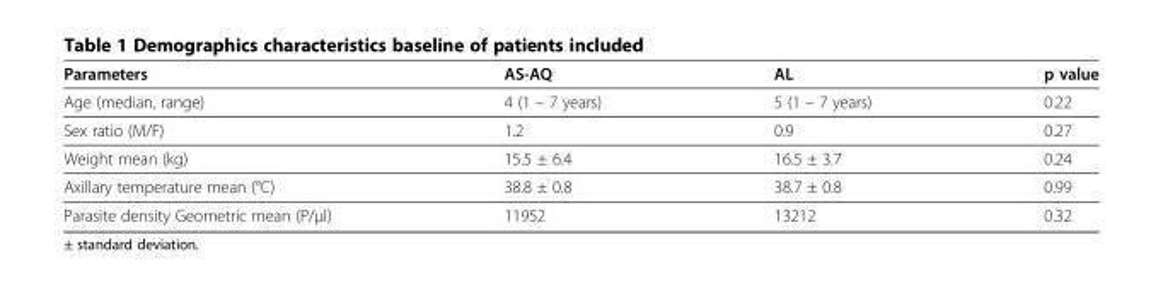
<table><thead><tr><td>Parameters</td><td>AS-AQ</td><td>AL</td><td>p value</td></tr></thead><tbody><tr><td>Age (median, range)</td><td>4 (1 – 7 years)</td><td>5 (1 – 7 years)</td><td>0.22</td></tr><tr><td>Sex ratio (M/F)</td><td>1.2</td><td>0.9</td><td>0.27</td></tr><tr><td>Weight mean (kg)</td><td>15.5 ± 6.4</td><td>16.5 ± 3.7</td><td>0.24</td></tr><tr><td>Axillary temperature mean (°C)</td><td>38.8 ± 0.8</td><td>38.7 ± 0.8</td><td>0.99</td></tr><tr><td>Parasite density Geometric mean (P/μl)</td><td>11952</td><td>13212</td><td>0.32</td></tr></tbody></table>